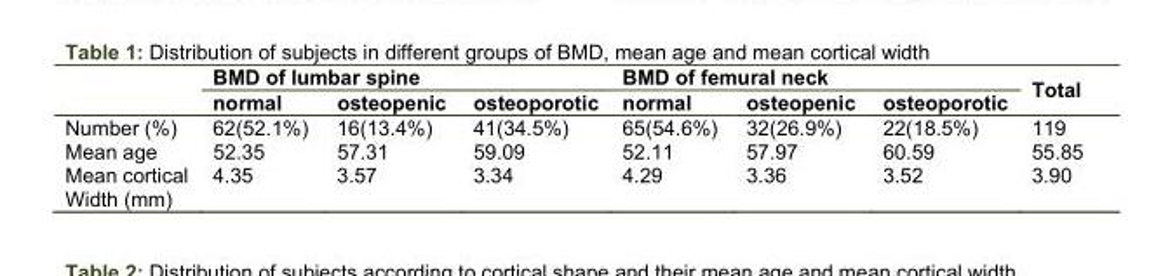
<table><thead><tr><td rowspan="2"></td><td colspan="3">BMD of lumbar spine</td><td colspan="3">BMD of femural neck</td><td rowspan="2">Total</td></tr><tr><td>normal</td><td>osteopenic</td><td>osteoporotic</td><td>normal</td><td>osteopenic</td><td>osteoporotic</td></tr></thead><tbody><tr><td>Number (%)</td><td>62(52.1%)</td><td>16(13.4%)</td><td>41(34.5%)</td><td>65(54.6%)</td><td>32(26.9%)</td><td>22(18.5%)</td><td>119</td></tr><tr><td>Mean age</td><td>52.35</td><td>57.31</td><td>59.09</td><td>52.11</td><td>57.97</td><td>60.59</td><td>55.85</td></tr><tr><td>Mean cortical Width (mm)</td><td>4.35</td><td>3.57</td><td>3.34</td><td>4.29</td><td>3.36</td><td>3.52</td><td>3.90</td></tr></tbody></table>